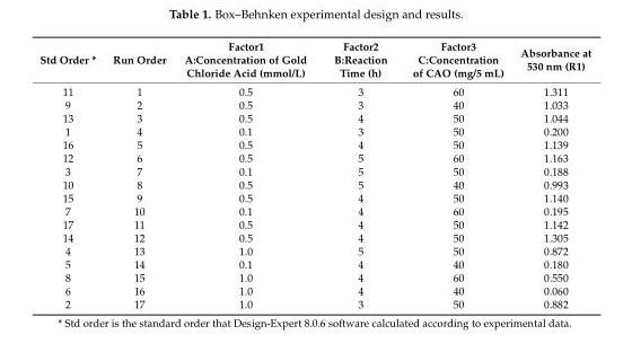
<table><thead><tr><td>Std Order *</td><td>Run Order</td><td>Factor1 A:Concentration of Gold Chloride Acid (mmol/L)</td><td>Factor2 B:Reaction Time (h)</td><td>Factor3 C:Concentration of CAO (mg/5 mL)</td><td>Absorbance at 530 nm (R1)</td></tr></thead><tbody><tr><td>11</td><td>1</td><td>0.5</td><td>3</td><td>60</td><td>1.311</td></tr><tr><td>9</td><td>2</td><td>0.5</td><td>3</td><td>40</td><td>1.033</td></tr><tr><td>13</td><td>3</td><td>0.5</td><td>4</td><td>50</td><td>1.044</td></tr><tr><td>1</td><td>4</td><td>0.1</td><td>3</td><td>50</td><td>0.200</td></tr><tr><td>16</td><td>5</td><td>0.5</td><td>4</td><td>50</td><td>1.139</td></tr><tr><td>12</td><td>6</td><td>0.5</td><td>5</td><td>60</td><td>1.163</td></tr><tr><td>3</td><td>7</td><td>0.1</td><td>5</td><td>50</td><td>0.188</td></tr><tr><td>10</td><td>8</td><td>0.5</td><td>5</td><td>40</td><td>0.993</td></tr><tr><td>15</td><td>9</td><td>0.5</td><td>4</td><td>50</td><td>1.140</td></tr><tr><td>7</td><td>10</td><td>0.1</td><td>4</td><td>60</td><td>0.195</td></tr><tr><td>17</td><td>11</td><td>0.5</td><td>4</td><td>50</td><td>1.142</td></tr><tr><td>14</td><td>12</td><td>0.5</td><td>4</td><td>50</td><td>1.305</td></tr><tr><td>4</td><td>13</td><td>1.0</td><td>5</td><td>50</td><td>0.872</td></tr><tr><td>5</td><td>14</td><td>0.1</td><td>4</td><td>40</td><td>0.180</td></tr><tr><td>8</td><td>15</td><td>1.0</td><td>4</td><td>60</td><td>0.550</td></tr><tr><td>6</td><td>16</td><td>1.0</td><td>4</td><td>40</td><td>0.060</td></tr><tr><td>2</td><td>17</td><td>1.0</td><td>3</td><td>50</td><td>0.882</td></tr></tbody></table>